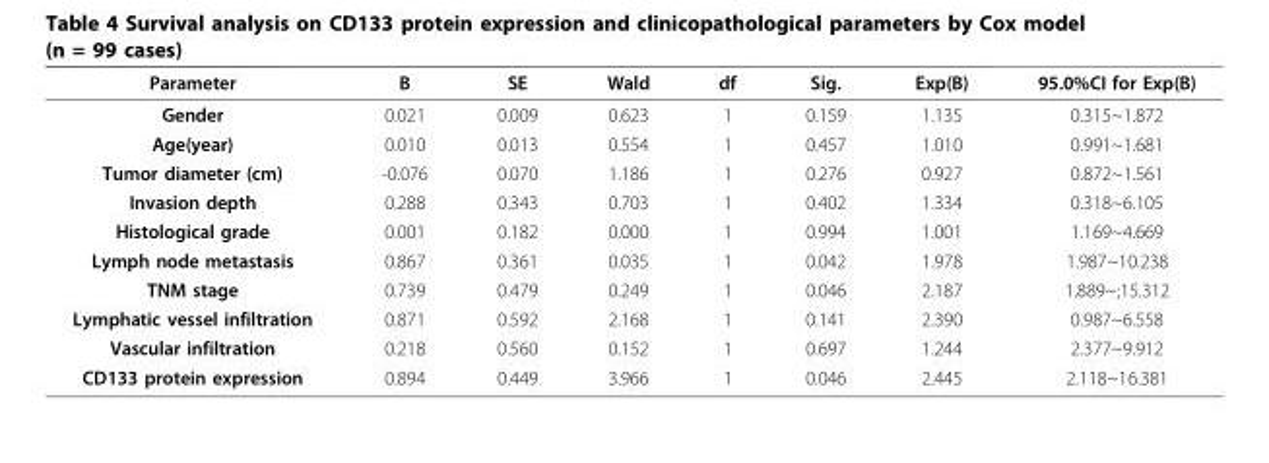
<table><thead><tr><td>Parameter</td><td>B</td><td>SE</td><td>Wald</td><td>df</td><td>Sig.</td><td>Exp(B)</td><td>95.0%CI for Exp(B)</td></tr></thead><tbody><tr><td>Gender</td><td>0.021</td><td>0.009</td><td>0.623</td><td>1</td><td>0.159</td><td>1.135</td><td>0.315~1.872</td></tr><tr><td>Age(year)</td><td>0.010</td><td>0.013</td><td>0.554</td><td>1</td><td>0.457</td><td>1.010</td><td>0.991~1.681</td></tr><tr><td>Tumor diameter (cm)</td><td>-0.076</td><td>0.070</td><td>1.186</td><td>1</td><td>0.276</td><td>0.927</td><td>0.872~1.561</td></tr><tr><td>Invasion depth</td><td>0.288</td><td>0.343</td><td>0.703</td><td>1</td><td>0.402</td><td>1.334</td><td>0.318~6.105</td></tr><tr><td>Histological grade</td><td>0.001</td><td>0.182</td><td>0.000</td><td>1</td><td>0.994</td><td>1.001</td><td>1.169~4.669</td></tr><tr><td>Lymph node metastasis</td><td>0.867</td><td>0.361</td><td>0.035</td><td>1</td><td>0.042</td><td>1.978</td><td>1.987~10.238</td></tr><tr><td>TNM stage</td><td>0.739</td><td>0.479</td><td>0.249</td><td>1</td><td>0.046</td><td>2.187</td><td>1.889~;15.312</td></tr><tr><td>Lymphatic vessel infiltration</td><td>0.871</td><td>0.592</td><td>2.168</td><td>1</td><td>0.141</td><td>2.390</td><td>0.987~6.558</td></tr><tr><td>Vascular infiltration</td><td>0.218</td><td>0.560</td><td>0.152</td><td>1</td><td>0.697</td><td>1.244</td><td>2.377~9.912</td></tr><tr><td>CD133 protein expression</td><td>0.894</td><td>0.449</td><td>3.966</td><td>1</td><td>0.046</td><td>2.445</td><td>2.118~16.381</td></tr></tbody></table>